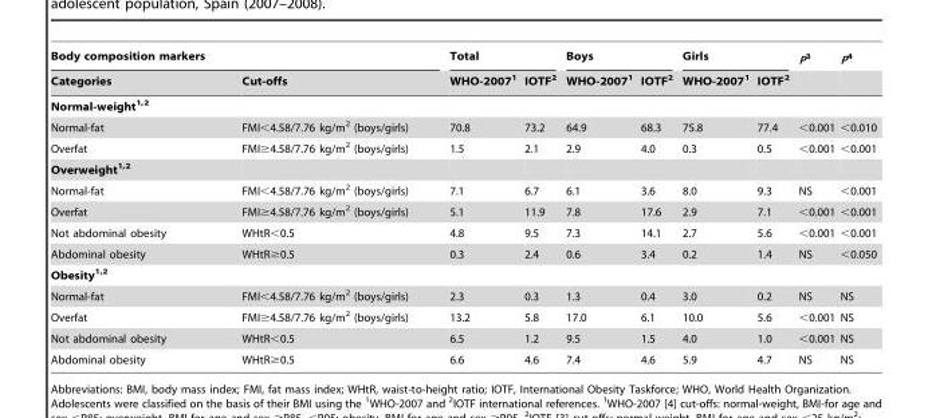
<table><thead><tr><td colspan="2">Body composition markers</td><td colspan="2">Total</td><td colspan="2">Boys</td><td colspan="2">Girls</td><td rowspan="2">P<sup>3</sup></td><td rowspan="2">P<sup>4</sup></td></tr><tr><td>Categories</td><td>Cut-offs</td><td>WHO-2007<sup>1</sup></td><td>IOTF<sup>2</sup></td><td>WHO-2007<sup>1</sup></td><td>IOTF<sup>2</sup></td><td>WHO-2007<sup>1</sup></td><td>IOTF<sup>2</sup></td></tr></thead><tbody><tr><td colspan="10">Normal-weight<sup>1,2</sup></td></tr><tr><td>Normal-fat</td><td>FMI&lt;4.58/7.76 kg/m<sup>2</sup> (boys/girls)</td><td>70.8</td><td>73.2</td><td>64.9</td><td>68.3</td><td>75.8</td><td>77.4</td><td>&lt;0.001</td><td>&lt;0.010</td></tr><tr><td>Overfat</td><td>FMI≥4.58/7.76 kg/m<sup>2</sup> (boys/girls)</td><td>1.5</td><td>2.1</td><td>2.9</td><td>4.0</td><td>0.3</td><td>0.5</td><td>&lt;0.001</td><td>&lt;0.001</td></tr><tr><td colspan="10">Overweight<sup>1,2</sup></td></tr><tr><td>Normal-fat</td><td>FMI&lt;4.58/7.76 kg/m<sup>2</sup> (boys/girls)</td><td>7.1</td><td>6.7</td><td>6.1</td><td>3.6</td><td>8.0</td><td>9.3</td><td>NS</td><td>&lt;0.001</td></tr><tr><td>Overfat</td><td>FMI≥4.58/7.76 kg/m<sup>2</sup> (boys/girls)</td><td>5.1</td><td>11.9</td><td>7.8</td><td>17.6</td><td>2.9</td><td>7.1</td><td>&lt;0.001</td><td>&lt;0.001</td></tr><tr><td>Not abdominal obesity</td><td>WHtR&lt;0.5</td><td>4.8</td><td>9.5</td><td>7.3</td><td>14.1</td><td>2.7</td><td>5.6</td><td>&lt;0.001</td><td>&lt;0.001</td></tr><tr><td>Abdominal obesity</td><td>WHtR≥0.5</td><td>0.3</td><td>2.4</td><td>0.6</td><td>3.4</td><td>0.2</td><td>1.4</td><td>NS</td><td>&lt;0.050</td></tr><tr><td colspan="10">Obesity<sup>1,2</sup></td></tr><tr><td>Normal-fat</td><td>FMI&lt;4.58/7.76 kg/m<sup>2</sup> (boys/girls)</td><td>2.3</td><td>0.3</td><td>1.3</td><td>0.4</td><td>3.0</td><td>0.2</td><td>NS</td><td>NS</td></tr><tr><td>Overfat</td><td>FMI≥4.58/7.76 kg/m<sup>2</sup> (boys/girls)</td><td>13.2</td><td>5.8</td><td>17.0</td><td>6.1</td><td>10.0</td><td>5.6</td><td>&lt;0.001</td><td>NS</td></tr><tr><td>Not abdominal obesity</td><td>WHtR&lt;0.5</td><td>6.5</td><td>1.2</td><td>9.5</td><td>1.5</td><td>4.0</td><td>1.0</td><td>&lt;0.001</td><td>NS</td></tr><tr><td>Abdominal obesity</td><td>WHtR≥0.5</td><td>6.6</td><td>4.6</td><td>7.4</td><td>4.6</td><td>5.9</td><td>4.7</td><td>NS</td><td>NS</td></tr></tbody></table>